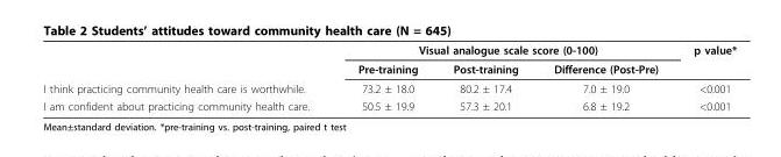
<table><thead><tr><td rowspan="2"></td><td colspan="3">Visual analogue scale score (0-100)</td><td rowspan="2">p value*</td></tr><tr><td>Pre-training</td><td>Post-training</td><td>Difference (Post-Pre)</td></tr></thead><tbody><tr><td>I think practicing community health care is worthwhile.</td><td>73.2 ± 18.0</td><td>80.2 ± 17.4</td><td>7.0 ± 19.0</td><td>&lt;0.001</td></tr><tr><td>I am confident about practicing community health care.</td><td>50.5 ± 19.9</td><td>57.3 ± 20.1</td><td>6.8 ± 19.2</td><td>&lt;0.001</td></tr></tbody></table>